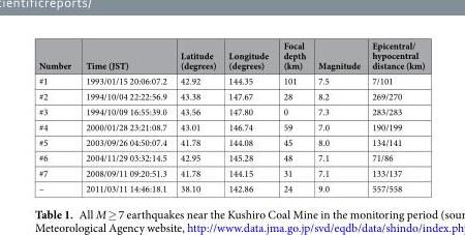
<table><thead><tr><td>Number</td><td>Time (JST)</td><td>Latitude (degrees)</td><td>Longitude (degrees)</td><td>Focal depth (km)</td><td>Magnitude</td><td>Epicentral/ hypocentral distance (km)</td></tr></thead><tbody><tr><td>#1</td><td>1993/01/15 20:06:07.2</td><td>42.92</td><td>144.35</td><td>101</td><td>7.5</td><td>7/101</td></tr><tr><td>#2</td><td>1994/10/04 22:22:56.9</td><td>43.38</td><td>147.67</td><td>28</td><td>8.2</td><td>269/270</td></tr><tr><td>#3</td><td>1994/10/09 16:55:39.0</td><td>43.56</td><td>147.80</td><td>0</td><td>7.3</td><td>283/283</td></tr><tr><td>#4</td><td>2000/01/28 23:21:08.7</td><td>43.01</td><td>146.74</td><td>59</td><td>7.0</td><td>190/199</td></tr><tr><td>#5</td><td>2003/09/26 04:50:07.4</td><td>41.78</td><td>144.08</td><td>45</td><td>8.0</td><td>134/141</td></tr><tr><td>#6</td><td>2004/11/29 03:32:14.5</td><td>42.95</td><td>145.28</td><td>48</td><td>7.1</td><td>71/86</td></tr><tr><td>#7</td><td>2008/09/11 09:20:51.3</td><td>41.78</td><td>144.15</td><td>31</td><td>7.1</td><td>133/137</td></tr><tr><td>–</td><td>2011/03/11 14:46:18.1</td><td>38.10</td><td>142.86</td><td>24</td><td>9.0</td><td>557/558</td></tr></tbody></table>